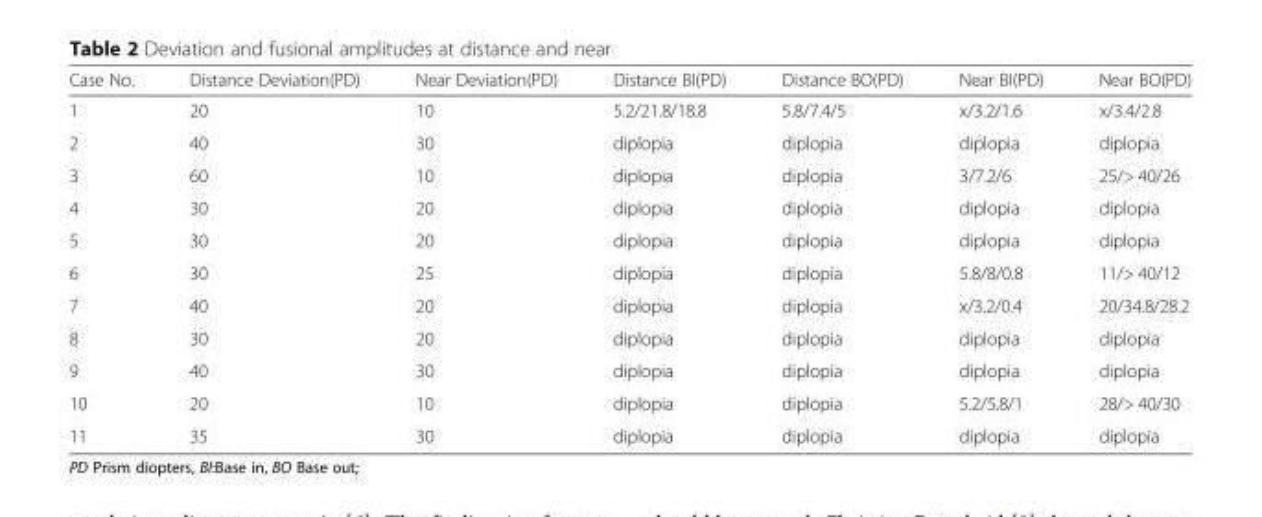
<table><thead><tr><td>Case No.</td><td>Distance Deviation(PD)</td><td>Near Deviation(PD)</td><td>Distance BI(PD)</td><td>Distance BO(PD)</td><td>Near BI(PD)</td><td>Near BO(PD)</td></tr></thead><tbody><tr><td>1</td><td>20</td><td>10</td><td>5.2/21.8/18.8</td><td>5.8/7.4/5</td><td>x/3.2/1.6</td><td>x/3.4/2.8</td></tr><tr><td>2</td><td>40</td><td>30</td><td>diplopia</td><td>diplopia</td><td>diplopia</td><td>diplopia</td></tr><tr><td>3</td><td>60</td><td>10</td><td>diplopia</td><td>diplopia</td><td>3/7.2/6</td><td>25/&gt; 40/26</td></tr><tr><td>4</td><td>30</td><td>20</td><td>diplopia</td><td>diplopia</td><td>diplopia</td><td>diplopia</td></tr><tr><td>5</td><td>30</td><td>20</td><td>diplopia</td><td>diplopia</td><td>diplopia</td><td>diplopia</td></tr><tr><td>6</td><td>30</td><td>25</td><td>diplopia</td><td>diplopia</td><td>5.8/8/0.8</td><td>11/&gt; 40/12</td></tr><tr><td>7</td><td>40</td><td>20</td><td>diplopia</td><td>diplopia</td><td>x/3.2/0.4</td><td>20/34.8/28.2</td></tr><tr><td>8</td><td>30</td><td>20</td><td>diplopia</td><td>diplopia</td><td>diplopia</td><td>diplopia</td></tr><tr><td>9</td><td>40</td><td>30</td><td>diplopia</td><td>diplopia</td><td>diplopia</td><td>diplopia</td></tr><tr><td>10</td><td>20</td><td>10</td><td>diplopia</td><td>diplopia</td><td>5.2/5.8/1</td><td>28/&gt; 40/30</td></tr><tr><td>11</td><td>35</td><td>30</td><td>diplopia</td><td>diplopia</td><td>diplopia</td><td>diplopia</td></tr></tbody></table>